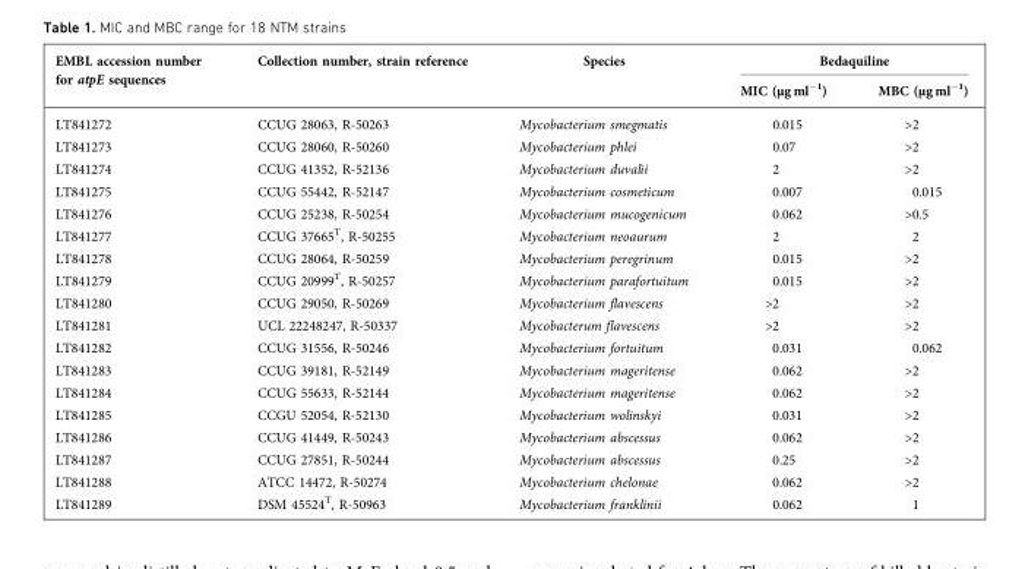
<table><thead><tr><td rowspan="2">EMBL accession number for atpE sequences</td><td rowspan="2">Collection number, strain reference</td><td rowspan="2">Species</td><td colspan="2">Bedaquiline</td></tr><tr><td>MIC (µg ml<sup>−1</sup>)</td><td>MBC (µg ml<sup>−1</sup>)</td></tr></thead><tbody><tr><td>LT841272</td><td>CCUG 28063, R-50263</td><td>Mycobacterium smegmatis</td><td>0.015</td><td>&gt;2</td></tr><tr><td>LT841273</td><td>CCUG 28060, R-50260</td><td>Mycobacterium phlei</td><td>0.07</td><td>&gt;2</td></tr><tr><td>LT841274</td><td>CCUG 41352, R-52136</td><td>Mycobacterium duvalii</td><td>2</td><td>&gt;2</td></tr><tr><td>LT841275</td><td>CCUG 55442, R-52147</td><td>Mycobacterium cosmeticum</td><td>0.007</td><td>0.015</td></tr><tr><td>LT841276</td><td>CCUG 25238, R-50254</td><td>Mycobacterium mucogenicum</td><td>0.062</td><td>&gt;0.5</td></tr><tr><td>LT841277</td><td>CCUG 37665<sup>T</sup>, R-50255</td><td>Mycobacterium neoaurum</td><td>2</td><td>2</td></tr><tr><td>LT841278</td><td>CCUG 28064, R-50259</td><td>Mycobacterium peregrinum</td><td>0.015</td><td>&gt;2</td></tr><tr><td>LT841279</td><td>CCUG 20999<sup>T</sup>, R-50257</td><td>Mycobacterium parafortuitum</td><td>0.015</td><td>&gt;2</td></tr><tr><td>LT841280</td><td>CCUG 29050, R-50269</td><td>Mycobacterium flavescens</td><td>&gt;2</td><td>&gt;2</td></tr><tr><td>LT841281</td><td>UCL 22248247, R-50337</td><td>Mycobacterum flavescens</td><td>&gt;2</td><td>&gt;2</td></tr><tr><td>LT841282</td><td>CCUG 31556, R-50246</td><td>Mycobacterium fortuitum</td><td>0.031</td><td>0.062</td></tr><tr><td>LT841283</td><td>CCUG 39181, R-52149</td><td>Mycobacterium mageritense</td><td>0.062</td><td>&gt;2</td></tr><tr><td>LT841284</td><td>CCUG 55633, R-52144</td><td>Mycobacterium mageritense</td><td>0.062</td><td>&gt;2</td></tr><tr><td>LT841285</td><td>CCGU 52054, R-52130</td><td>Mycobacterium wolinskyi</td><td>0.031</td><td>&gt;2</td></tr><tr><td>LT841286</td><td>CCUG 41449, R-50243</td><td>Mycobacterium abscessus</td><td>0.062</td><td>&gt;2</td></tr><tr><td>LT841287</td><td>CCUG 27851, R-50244</td><td>Mycobacterium abscessus</td><td>0.25</td><td>&gt;2</td></tr><tr><td>LT841288</td><td>ATCC 14472, R-50274</td><td>Mycobacterium chelonae</td><td>0.062</td><td>&gt;2</td></tr><tr><td>LT841289</td><td>DSM 45524<sup>T</sup>, R-50963</td><td>Mycobacterium franklinii</td><td>0.062</td><td>1</td></tr></tbody></table>